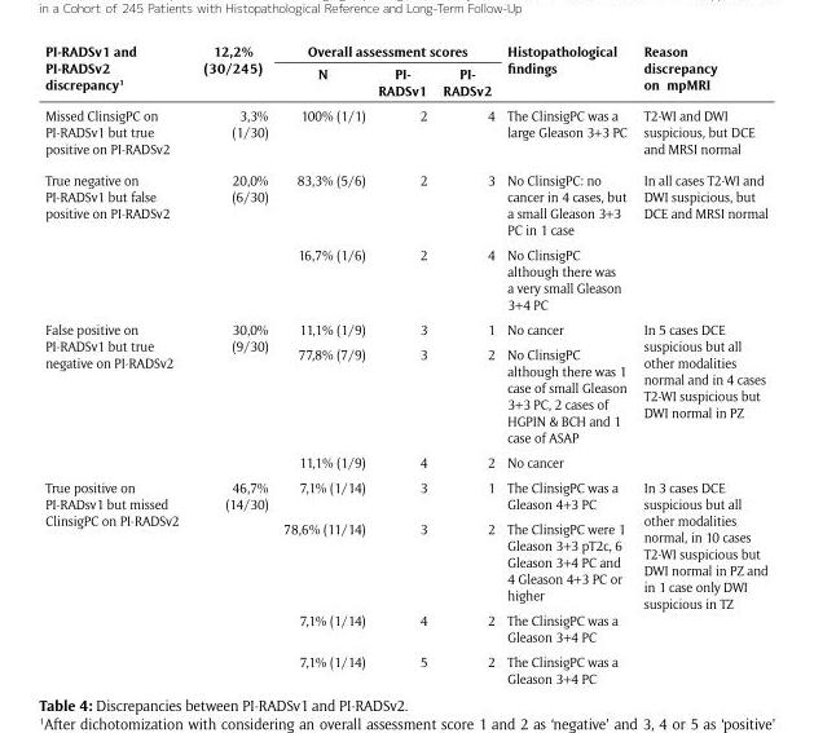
<table><thead><tr><td rowspan="2">PI-RADSv1 and PI-RADSv2 discrepancy<sup>1</sup></td><td rowspan="2">12,2% (30/245)</td><td colspan="3">Overall assessment scores</td><td rowspan="2">Histopathological findings</td><td rowspan="2">Reason discrepancy on mpMRI</td></tr><tr><td>N</td><td>PI- RADSv1</td><td>PI- RADSv2</td></tr></thead><tbody><tr><td>Missed ClinsigPC on PI-RADSv1 but true positive on PI-RADSv2</td><td>3,3% (1/30)</td><td>100% (1/1)</td><td>2</td><td>4</td><td>The ClinsigPC was a large Gleason 3+3 PC</td><td>T2-WI and DWI suspicious, but DCE and MRSI normal</td></tr><tr><td rowspan="2">True negative on PI-RADSv1 but false positive on PI-RADSv2</td><td rowspan="2">20,0% (6/30)</td><td>83,3% (5/6)</td><td>2</td><td>3</td><td>No ClinsigPC: no cancer in 4 cases, but a small Gleason 3+3 PC in 1 case</td><td rowspan="2">In all cases T2-WI and DWI suspicious, but DCE and MRSI normal</td></tr><tr><td>16,7% (1/6)</td><td>2</td><td>4</td><td>No ClinsigPC although there was a very small Gleason 3+4 PC</td></tr><tr><td rowspan="3">False positive on PI-RADSv1 but true negative on PI-RADSv2</td><td rowspan="3">30,0% (9/30)</td><td>11,1% (1/9)</td><td>3</td><td>1</td><td>No cancer</td><td rowspan="3">In 5 cases DCE suspicious but all other modalities normal and in 4 cases T2-WI suspicious but DWI normal in PZ</td></tr><tr><td>77,8% (7/9)</td><td>3</td><td>2</td><td>No ClinsigPC although there was 1 case of small Gleason 3+3 PC, 2 cases of HGPIN &amp; BCH and 1 case of ASAP</td></tr><tr><td>11,1% (1/9)</td><td>4</td><td>2</td><td>No cancer</td></tr><tr><td rowspan="4">True positive on PI-RADsv1 but missed ClinsigPC on PI-RADSv2</td><td rowspan="4">46,7% (14/30)</td><td>7,1% (1/14)</td><td>3</td><td>1</td><td>The ClinsigPC was a Gleason 4+3 PC</td><td rowspan="4">In 3 cases DCE suspicious but all other modalities normal, in 10 cases T2-WI suspicious but DWI normal in PZ and in 1 case only DWI suspicious in TZ</td></tr><tr><td>78,6% (11/14)</td><td>3</td><td>2</td><td>The ClinsigPC were 1 Gleason 3+3 pT2c, 6 Gleason 3+4 PC and 4 Gleason 4+3 PC or higher</td></tr><tr><td>7,1% (1/14)</td><td>4</td><td>2</td><td>The ClinsigPC was a Gleason 3+4 PC</td></tr><tr><td>7,1% (1/14)</td><td>5</td><td>2</td><td>The ClinsigPC was a Gleason 3+4 PC</td></tr></tbody></table>